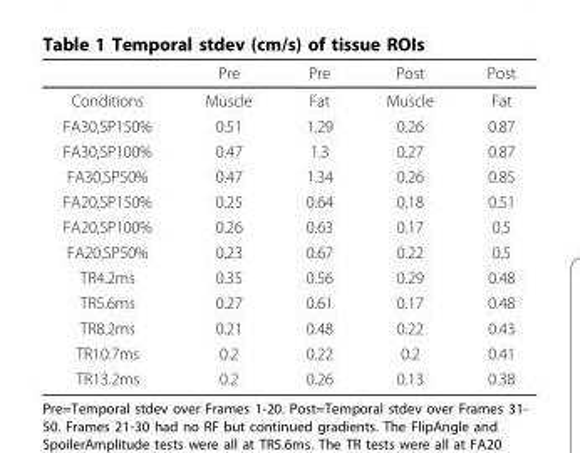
<table><thead><tr><td></td><td>Pre</td><td>Pre</td><td>Post</td><td>Post</td></tr></thead><tbody><tr><td>Conditions</td><td>Muscle</td><td>Fat</td><td>Muscle</td><td>Fat</td></tr><tr><td>FA30,SP150%</td><td>0.51</td><td>1.29</td><td>0.26</td><td>0.87</td></tr><tr><td>FA30,SP100%</td><td>0.47</td><td>1.3</td><td>0.27</td><td>0.87</td></tr><tr><td>FA30,SP50%</td><td>0.47</td><td>1.34</td><td>0.26</td><td>0.85</td></tr><tr><td>FA20,SP150%</td><td>0.25</td><td>0.64</td><td>0.18</td><td>0.51</td></tr><tr><td>FA20,SP100%</td><td>0.26</td><td>0.63</td><td>0.17</td><td>0.5</td></tr><tr><td>FA20,SP50%</td><td>0.23</td><td>0.67</td><td>0.22</td><td>0.5</td></tr><tr><td>TR4.2ms</td><td>0.35</td><td>0.56</td><td>0.29</td><td>0.48</td></tr><tr><td>TR5.6ms</td><td>0.27</td><td>0.61</td><td>0.17</td><td>0.48</td></tr><tr><td>TR8.2ms</td><td>0.21</td><td>0.48</td><td>0.22</td><td>0.43</td></tr><tr><td>TR10.7ms</td><td>0.2</td><td>0.22</td><td>0.2</td><td>0.41</td></tr><tr><td>TR13.2ms</td><td>0.2</td><td>0.26</td><td>0.13</td><td>0.38</td></tr></tbody></table>